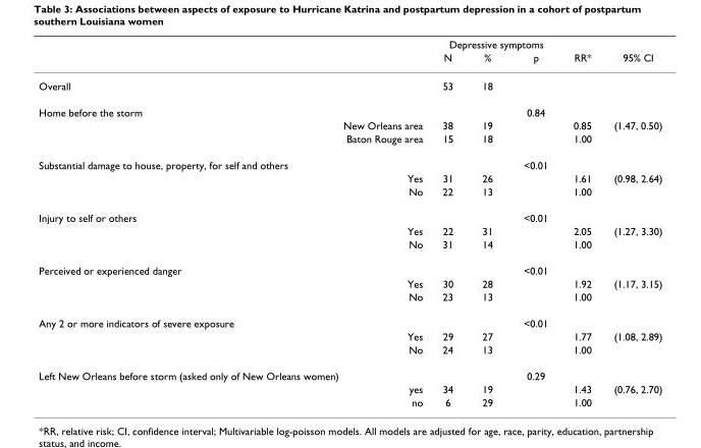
<table><thead><tr><td rowspan="2"></td><td colspan="3">Depressive symptoms</td><td rowspan="2">RR*</td><td rowspan="2">95% CI</td></tr><tr><td>N</td><td>%</td><td>p</td></tr></thead><tbody><tr><td>Overall</td><td>53</td><td>18</td><td></td><td></td><td></td></tr><tr><td>Home before the storm</td><td></td><td></td><td>0.84</td><td></td><td></td></tr><tr><td>New Orleans area</td><td>38</td><td>19</td><td></td><td>0.85</td><td>(1.47, 0.50)</td></tr><tr><td>Baton Rouge area</td><td>15</td><td>18</td><td></td><td>1.00</td><td></td></tr><tr><td>Substantial damage to house, property, for self and others</td><td></td><td></td><td>&lt;0.01</td><td></td><td></td></tr><tr><td>Yes</td><td>31</td><td>26</td><td></td><td>1.61</td><td>(0.98, 2.64)</td></tr><tr><td>No</td><td>22</td><td>13</td><td></td><td>1.00</td><td></td></tr><tr><td>Injury to self or others</td><td></td><td></td><td>&lt;0.01</td><td></td><td></td></tr><tr><td>Yes</td><td>22</td><td>31</td><td></td><td>2.05</td><td>(1.27, 3.30)</td></tr><tr><td>No</td><td>31</td><td>14</td><td></td><td>1.00</td><td></td></tr><tr><td>Perceived or experienced danger</td><td></td><td></td><td>&lt;0.01</td><td></td><td></td></tr><tr><td>Yes</td><td>30</td><td>28</td><td></td><td>1.92</td><td>(1.17, 3.15)</td></tr><tr><td>No</td><td>23</td><td>13</td><td></td><td>1.00</td><td></td></tr><tr><td>Any 2 or more indicators of severe exposure</td><td></td><td></td><td>&lt;0.01</td><td></td><td></td></tr><tr><td>Yes</td><td>29</td><td>27</td><td></td><td>1.77</td><td>(1.08, 2.89)</td></tr><tr><td>No</td><td>24</td><td>13</td><td></td><td>1.00</td><td></td></tr><tr><td>Left New Orleans before storm (asked only of New Orleans women)</td><td></td><td></td><td>0.29</td><td></td><td></td></tr><tr><td>yes</td><td>34</td><td>19</td><td></td><td>1.43</td><td>(0.76, 2.70)</td></tr><tr><td>no</td><td>6</td><td>29</td><td></td><td>1.00</td><td></td></tr></tbody></table>